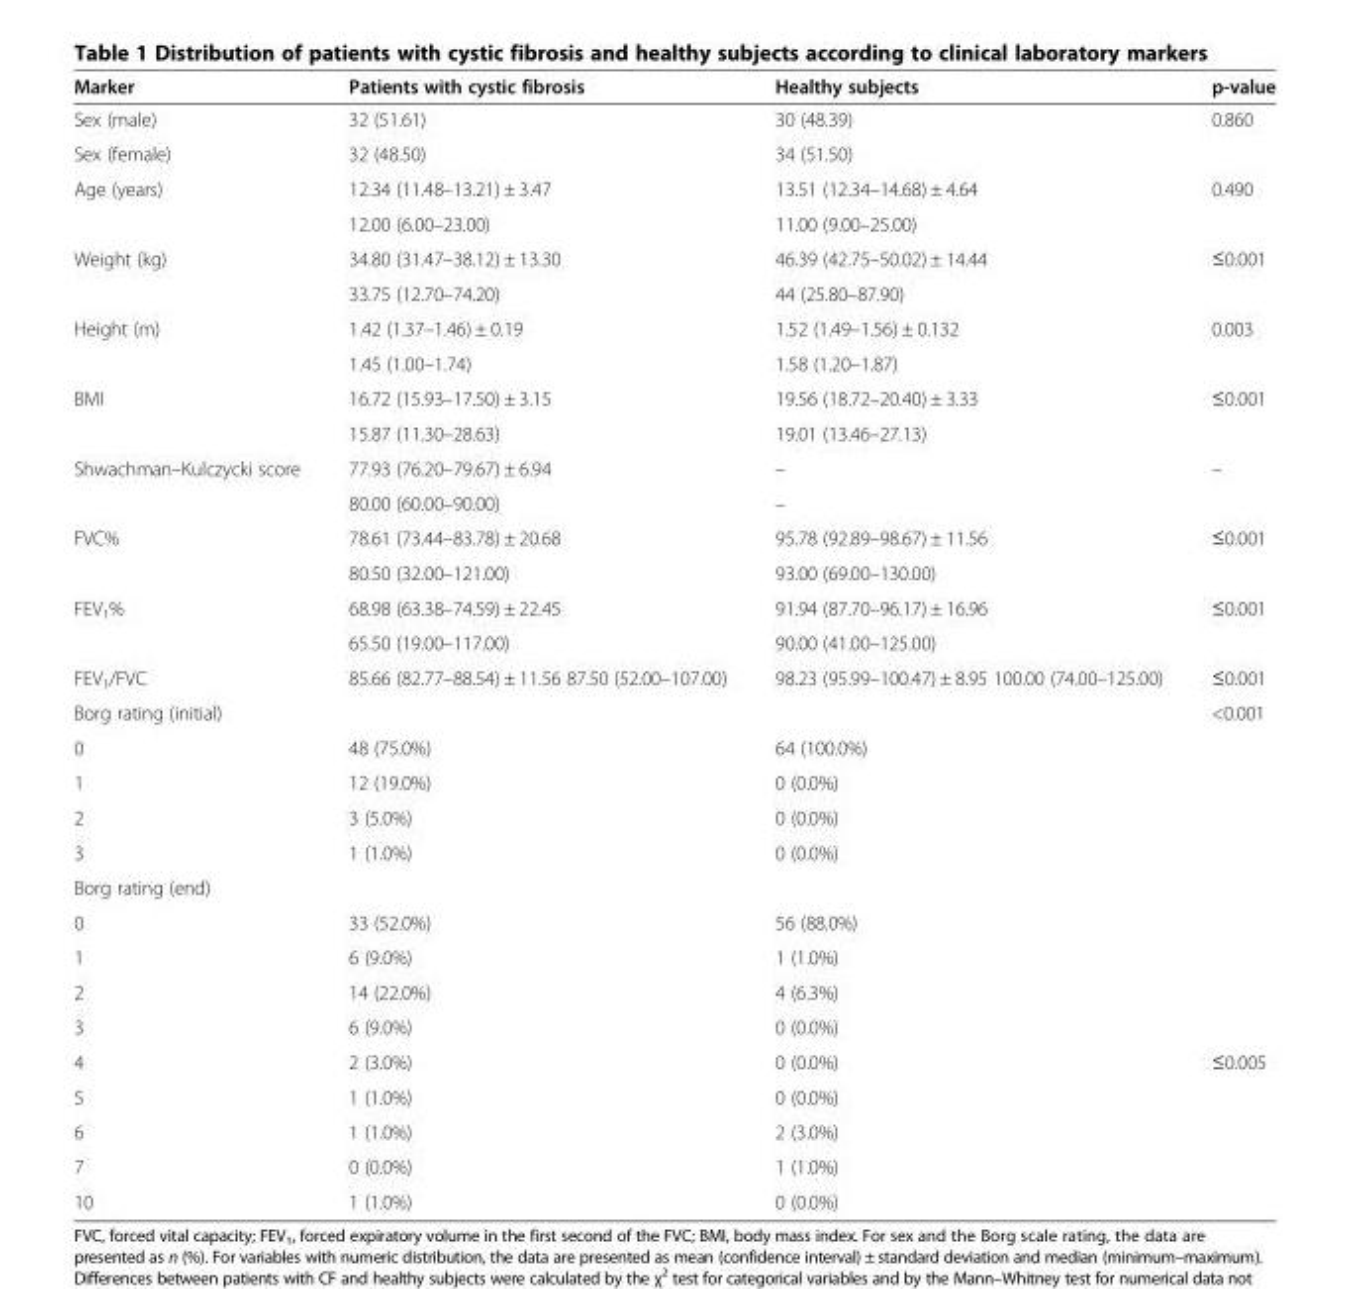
<table><thead><tr><td>Marker</td><td>Patients with cystic fibrosis</td><td>Healthy subjects</td><td>p-value</td></tr></thead><tbody><tr><td>Sex (male)</td><td>32 (51.61)</td><td>30 (48.39)</td><td>0.860</td></tr><tr><td>Sex (female)</td><td>32 (48.50)</td><td>34 (51.50)</td><td></td></tr><tr><td rowspan="2">Age (years)</td><td>12.34 (11.48–13.21) ± 3.47</td><td>13.51 (12.34–14.68) ± 4.64</td><td rowspan="2">0.490</td></tr><tr><td>12.00 (6.00–23.00)</td><td>11.00 (9.00–25.00)</td></tr><tr><td rowspan="2">Weight (kg)</td><td>34.80 (31.47–38.12) ± 13.30</td><td>46.39 (42.75–50.02) ± 14.44</td><td rowspan="2">≤0.001</td></tr><tr><td>33.75 (12.70–74.20)</td><td>44 (25.80–87.90)</td></tr><tr><td rowspan="2">Height (m)</td><td>1.42 (1.37–1.46) ± 0.19</td><td>1.52 (1.49–1.56) ± 0.132</td><td rowspan="2">0.003</td></tr><tr><td>1.45 (1.00–1.74)</td><td>1.58 (1.20–1.87)</td></tr><tr><td rowspan="2">BMI</td><td>16.72 (15.93–17.50) ± 3.15</td><td>19.56 (18.72–20.40) ± 3.33</td><td rowspan="2">≤0.001</td></tr><tr><td>15.87 (11.30–28.63)</td><td>19.01 (13.46–27.13)</td></tr><tr><td rowspan="2">Shwachman–Kulczycki score</td><td>77.93 (76.20–79.67) ± 6.94</td><td>–</td><td rowspan="2">–</td></tr><tr><td>80.00 (60.00–90.00)</td><td>–</td></tr><tr><td rowspan="2">FVC%</td><td>78.61 (73.44–83.78) ± 20.68</td><td>95.78 (92.89–98.67) ± 11.56</td><td rowspan="2">≤0.001</td></tr><tr><td>80.50 (32.00–121.00)</td><td>93.00 (69.00–130.00)</td></tr><tr><td rowspan="2">FEV<sub>1</sub>%</td><td>68.98 (63.38–74.59) ± 22.45</td><td>91.94 (87.70–96.17) ± 16.96</td><td rowspan="2">≤0.001</td></tr><tr><td>65.50 (19.00–117.00)</td><td>90.00 (41.00–125.00)</td></tr><tr><td>FEV<sub>1</sub>/FVC</td><td>85.66 (82.77–88.54) ± 11.56 87.50 (52.00–107.00)</td><td>98.23 (95.99–100.47) ± 8.95 100.00 (74.00–125.00)</td><td>≤0.001</td></tr><tr><td colspan="3">Borg rating (initial)</td><td rowspan="5">&lt;0.001</td></tr><tr><td>0</td><td>48 (75.0%)</td><td>64 (100.0%)</td></tr><tr><td>1</td><td>12 (19.0%)</td><td>0 (0.0%)</td></tr><tr><td>2</td><td>3 (5.0%)</td><td>0 (0.0%)</td></tr><tr><td>3</td><td>1 (1.0%)</td><td>0 (0.0%)</td></tr><tr><td colspan="4">Borg rating (end)</td></tr><tr><td>0</td><td>33 (52.0%)</td><td>56 (88.0%)</td><td></td></tr><tr><td>1</td><td>6 (9.0%)</td><td>1 (1.0%)</td><td></td></tr><tr><td>2</td><td>14 (22.0%)</td><td>4 (6.3%)</td><td></td></tr><tr><td>3</td><td>6 (9.0%)</td><td>0 (0.0%)</td><td></td></tr><tr><td>4</td><td>2 (3.0%)</td><td>0 (0.0%)</td><td>≤0.005</td></tr><tr><td>5</td><td>1 (1.0%)</td><td>0 (0.0%)</td><td></td></tr><tr><td>6</td><td>1 (1.0%)</td><td>2 (3.0%)</td><td></td></tr><tr><td>7</td><td>0 (0.0%)</td><td>1 (1.0%)</td><td></td></tr><tr><td>10</td><td>1 (1.0%)</td><td>0 (0.0%)</td><td></td></tr></tbody></table>